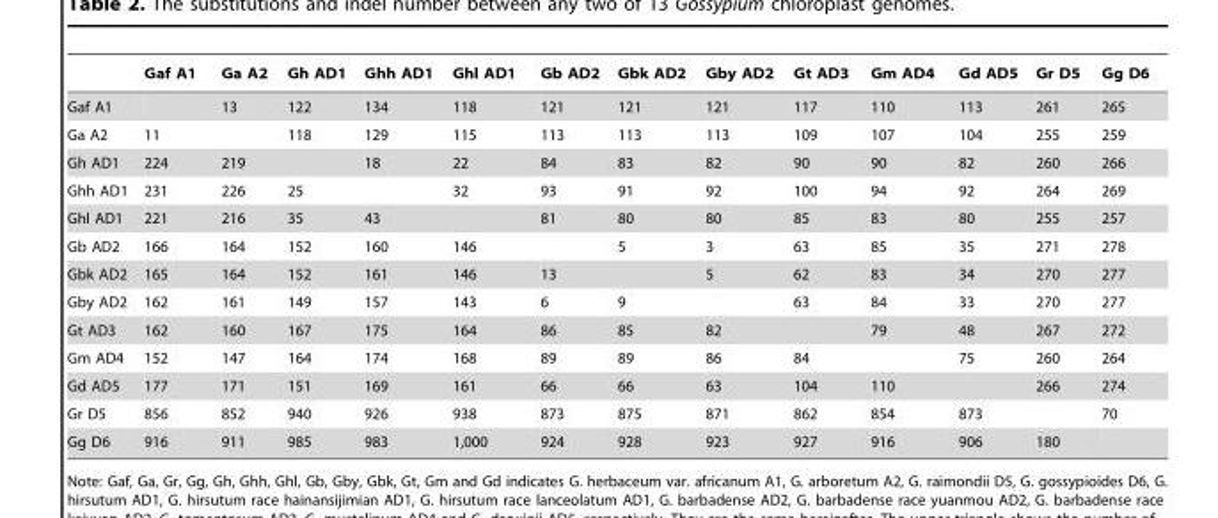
<table><thead><tr><td></td><td>Gaf A1</td><td>Ga A2</td><td>Gh AD1</td><td>Ghh AD1</td><td>Ghl AD1</td><td>Gb AD2</td><td>Gbk AD2</td><td>Gby AD2</td><td>Gt AD3</td><td>Gm AD4</td><td>Gd AD5</td><td>Gr D5</td><td>Gg D6</td></tr></thead><tbody><tr><td>Gaf A1</td><td></td><td>13</td><td>122</td><td>134</td><td>118</td><td>121</td><td>121</td><td>121</td><td>117</td><td>110</td><td>113</td><td>261</td><td>265</td></tr><tr><td>Ga A2</td><td>11</td><td></td><td>118</td><td>129</td><td>115</td><td>113</td><td>113</td><td>113</td><td>109</td><td>107</td><td>104</td><td>255</td><td>259</td></tr><tr><td>Gh AD1</td><td>224</td><td>219</td><td></td><td>18</td><td>22</td><td>84</td><td>83</td><td>82</td><td>90</td><td>90</td><td>82</td><td>260</td><td>266</td></tr><tr><td>Ghh AD1</td><td>231</td><td>226</td><td>25</td><td></td><td>32</td><td>93</td><td>91</td><td>92</td><td>100</td><td>94</td><td>92</td><td>264</td><td>269</td></tr><tr><td>Ghl AD1</td><td>221</td><td>216</td><td>35</td><td>43</td><td></td><td>81</td><td>80</td><td>80</td><td>85</td><td>83</td><td>80</td><td>255</td><td>257</td></tr><tr><td>Gb AD2</td><td>166</td><td>164</td><td>152</td><td>160</td><td>146</td><td></td><td>5</td><td>3</td><td>63</td><td>85</td><td>35</td><td>271</td><td>278</td></tr><tr><td>Gbk AD2</td><td>165</td><td>164</td><td>152</td><td>161</td><td>146</td><td>13</td><td></td><td>5</td><td>62</td><td>83</td><td>34</td><td>270</td><td>277</td></tr><tr><td>Gby AD2</td><td>162</td><td>161</td><td>149</td><td>157</td><td>143</td><td>6</td><td>9</td><td></td><td>63</td><td>84</td><td>33</td><td>270</td><td>277</td></tr><tr><td>Gt AD3</td><td>162</td><td>160</td><td>167</td><td>175</td><td>164</td><td>86</td><td>85</td><td>82</td><td></td><td>79</td><td>48</td><td>267</td><td>272</td></tr><tr><td>Gm AD4</td><td>152</td><td>147</td><td>164</td><td>174</td><td>168</td><td>89</td><td>89</td><td>86</td><td>84</td><td></td><td>75</td><td>260</td><td>264</td></tr><tr><td>Gd AD5</td><td>177</td><td>171</td><td>151</td><td>169</td><td>161</td><td>66</td><td>66</td><td>63</td><td>104</td><td>110</td><td></td><td>266</td><td>274</td></tr><tr><td>Gr D5</td><td>856</td><td>852</td><td>940</td><td>926</td><td>938</td><td>873</td><td>875</td><td>871</td><td>862</td><td>854</td><td>873</td><td></td><td>70</td></tr><tr><td>Gg D6</td><td>916</td><td>911</td><td>985</td><td>983</td><td>1,000</td><td>924</td><td>928</td><td>923</td><td>927</td><td>916</td><td>906</td><td>180</td><td></td></tr></tbody></table>